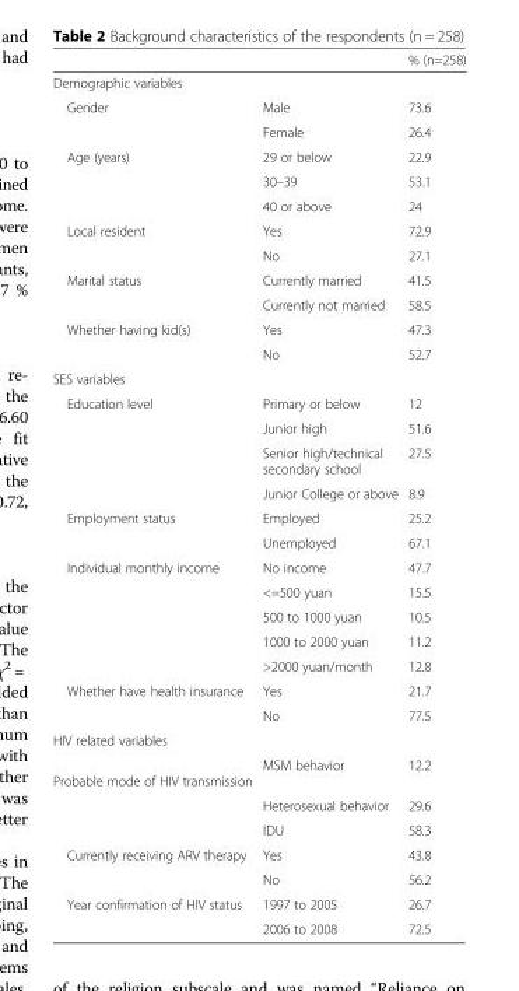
<table><thead><tr><td></td><td></td><td>% (n=258)</td></tr></thead><tbody><tr><td colspan="3">Demographic variables</td></tr><tr><td rowspan="2">Gender</td><td>Male</td><td>73.6</td></tr><tr><td>Female</td><td>26.4</td></tr><tr><td rowspan="3">Age (years)</td><td>29 or below</td><td>22.9</td></tr><tr><td>30–39</td><td>53.1</td></tr><tr><td>40 or above</td><td>24</td></tr><tr><td rowspan="2">Local resident</td><td>Yes</td><td>72.9</td></tr><tr><td>No</td><td>27.1</td></tr><tr><td rowspan="2">Marital status</td><td>Currently married</td><td>41.5</td></tr><tr><td>Currently not married</td><td>58.5</td></tr><tr><td rowspan="2">Whether having kid(s)</td><td>Yes</td><td>47.3</td></tr><tr><td>No</td><td>52.7</td></tr><tr><td colspan="3">SES variables</td></tr><tr><td rowspan="4">Education level</td><td>Primary or below</td><td>12</td></tr><tr><td>Junior high</td><td>51.6</td></tr><tr><td>Senior high/technical secondary school</td><td>27.5</td></tr><tr><td>Junior College or above</td><td>8.9</td></tr><tr><td rowspan="2">Employment status</td><td>Employed</td><td>25.2</td></tr><tr><td>Unemployed</td><td>67.1</td></tr><tr><td rowspan="5">Individual monthly income</td><td>No income</td><td>47.7</td></tr><tr><td>&lt;=500 yuan</td><td>15.5</td></tr><tr><td>500 to 1000 yuan</td><td>10.5</td></tr><tr><td>1000 to 2000 yuan</td><td>11.2</td></tr><tr><td>&gt;2000 yuan/month</td><td>12.8</td></tr><tr><td rowspan="2">Whether have health insurance</td><td>Yes</td><td>21.7</td></tr><tr><td>No</td><td>77.5</td></tr><tr><td colspan="3">HIV related variables</td></tr><tr><td rowspan="3">Probable mode of HIV transmission</td><td>MSM behavior</td><td>12.2</td></tr><tr><td>Heterosexual behavior</td><td>29.6</td></tr><tr><td>IDU</td><td>58.3</td></tr><tr><td rowspan="2">Currently receiving ARV therapy</td><td>Yes</td><td>43.8</td></tr><tr><td>No</td><td>56.2</td></tr><tr><td rowspan="2">Year confirmation of HIV status</td><td>1997 to 2005</td><td>26.7</td></tr><tr><td>2006 to 2008</td><td>72.5</td></tr></tbody></table>